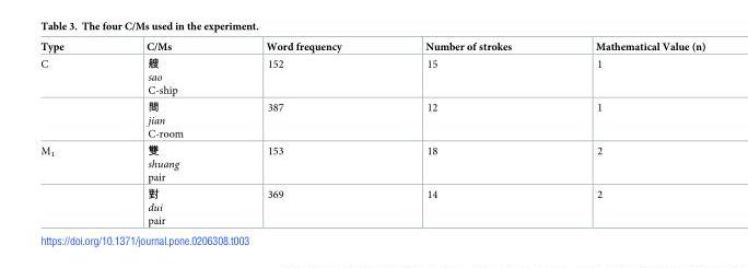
<table><thead><tr><td>Type</td><td>C/Ms</td><td>Word frequency</td><td>Number of strokes</td><td>Mathematical Value (n)</td></tr></thead><tbody><tr><td rowspan="2">C</td><td>艘 sao C-ship</td><td>152</td><td>15</td><td>1</td></tr><tr><td>間 jian C-room</td><td>387</td><td>12</td><td>1</td></tr><tr><td rowspan="2">M<sub>1</sub></td><td>雙 shuang pair</td><td>153</td><td>18</td><td>2</td></tr><tr><td>對 dui pair</td><td>369</td><td>14</td><td>2</td></tr></tbody></table>